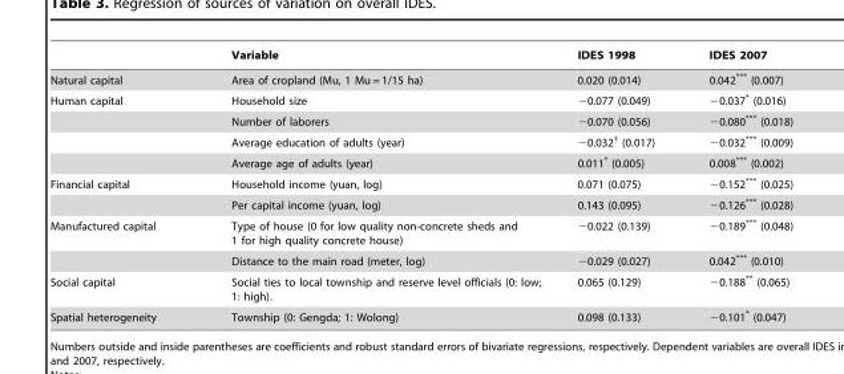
<table><thead><tr><td></td><td>Variable</td><td>IDES 1998</td><td>IDES 2007</td></tr></thead><tbody><tr><td>Natural capital</td><td>Area of cropland (Mu, 1 Mu = 1/15 ha)</td><td>0.020 (0.014)</td><td>0.042*** (0.007)</td></tr><tr><td rowspan="4">Human capital</td><td>Household size</td><td>−0.077 (0.049)</td><td>−0.037* (0.016)</td></tr><tr><td>Number of laborers</td><td>−0.070 (0.056)</td><td>−0.080*** (0.018)</td></tr><tr><td>Average education of adults (year)</td><td>−0.032† (0.017)</td><td>−0.032*** (0.009)</td></tr><tr><td>Average age of adults (year)</td><td>0.011* (0.005)</td><td>0.008*** (0.002)</td></tr><tr><td rowspan="2">Financial capital</td><td>Household income (yuan, log)</td><td>0.071 (0.075)</td><td>−0.152*** (0.025)</td></tr><tr><td>Per capital income (yuan, log)</td><td>0.143 (0.095)</td><td>−0.126*** (0.028)</td></tr><tr><td rowspan="2">Manufactured capital</td><td>Type of house (0 for low quality non-concrete sheds and 1 for high quality concrete house)</td><td>−0.022 (0.139)</td><td>−0.189*** (0.048)</td></tr><tr><td>Distance to the main road (meter, log)</td><td>−0.029 (0.027)</td><td>0.042*** (0.010)</td></tr><tr><td>Social capital</td><td>Social ties to local township and reserve level officials (0: low; 1: high).</td><td>0.065 (0.129)</td><td>−0.188** (0.065)</td></tr><tr><td>Spatial heterogeneity</td><td>Township (0: Gengda; 1: Wolong)</td><td>0.098 (0.133)</td><td>−0.101* (0.047)</td></tr></tbody></table>